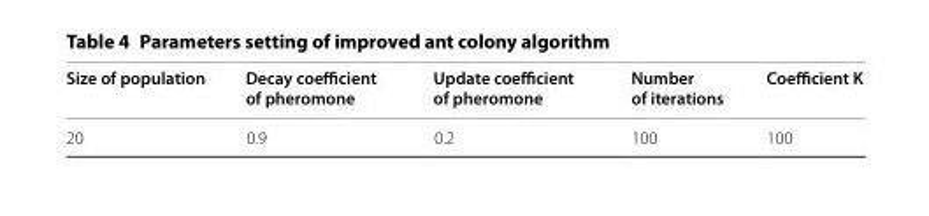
<table><thead><tr><td>Size of population</td><td>Decay coefficient of pheromone</td><td>Update coefficient of pheromone</td><td>Number of iterations</td><td>Coefficient K</td></tr></thead><tbody><tr><td>20</td><td>0.9</td><td>0.2</td><td>100</td><td>100</td></tr></tbody></table>